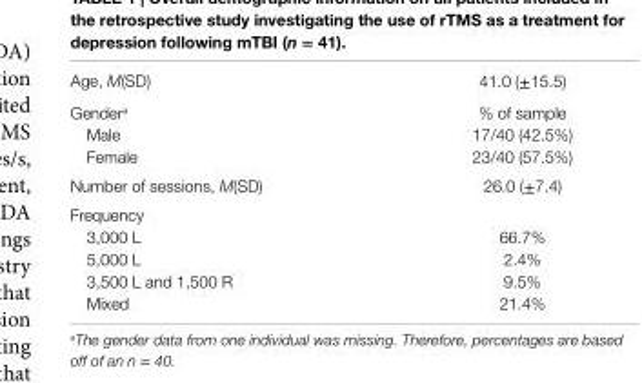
<table><tbody><tr><td>Age, M(SD)</td><td>41.0 (±15.5)</td></tr><tr><td>Gender<sup>a</sup></td><td>% of sample</td></tr><tr><td>Male</td><td>17/40 (42.5%)</td></tr><tr><td>Female</td><td>23/40 (57.5%)</td></tr><tr><td>Number of sessions, M(SD)</td><td>26.0 (±7.4)</td></tr><tr><td colspan="2">Frequency</td></tr><tr><td>3,000 L</td><td>66.7%</td></tr><tr><td>5,000 L</td><td>2.4%</td></tr><tr><td>3,500 L and 1,500 R</td><td>9.5%</td></tr><tr><td>Mixed</td><td>21.4%</td></tr></tbody></table>